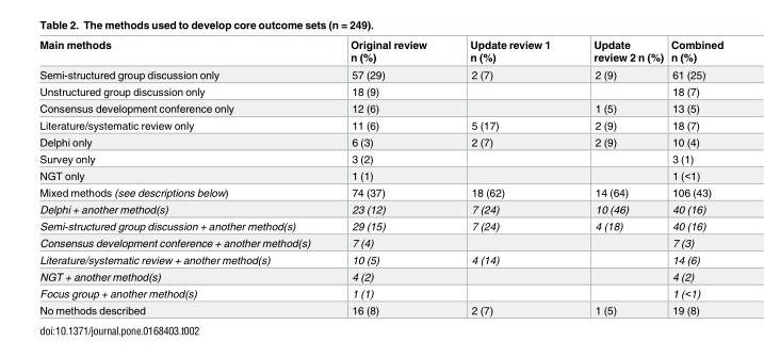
<table><thead><tr><td>Main methods</td><td>Original review n (%)</td><td>Update review 1 n (%)</td><td>Update review 2 n (%)</td><td>Combined n (%)</td></tr></thead><tbody><tr><td>Semi-structured group discussion only</td><td>57 (29)</td><td>2 (7)</td><td>2 (9)</td><td>61 (25)</td></tr><tr><td>Unstructured group discussion only</td><td>18 (9)</td><td></td><td></td><td>18 (7)</td></tr><tr><td>Consensus development conference only</td><td>12 (6)</td><td></td><td>1 (5)</td><td>13 (5)</td></tr><tr><td>Literature/systematic review only</td><td>11 (6)</td><td>5 (17)</td><td>2 (9)</td><td>18 (7)</td></tr><tr><td>Delphi only</td><td>6 (3)</td><td>2 (7)</td><td>2 (9)</td><td>10 (4)</td></tr><tr><td>Survey only</td><td>3 (2)</td><td></td><td></td><td>3 (1)</td></tr><tr><td>NGT only</td><td>1 (1)</td><td></td><td></td><td>1 (&lt;1)</td></tr><tr><td>Mixed methods (see descriptions below)</td><td>74 (37)</td><td>18 (62)</td><td>14 (64)</td><td>106 (43)</td></tr><tr><td>Delphi + another method(s)</td><td>23 (12)</td><td>7 (24)</td><td>10 (46)</td><td>40 (16)</td></tr><tr><td>Semi-structured group discussion + another method(s)</td><td>29 (15)</td><td>7 (24)</td><td>4 (18)</td><td>40 (16)</td></tr><tr><td>Consensus development conference + another method(s)</td><td>7 (4)</td><td></td><td></td><td>7 (3)</td></tr><tr><td>Literature/systematic review + another method(s)</td><td>10 (5)</td><td>4 (14)</td><td></td><td>14 (6)</td></tr><tr><td>NGT + another method(s)</td><td>4 (2)</td><td></td><td></td><td>4 (2)</td></tr><tr><td>Focus group + another method(s)</td><td>1 (1)</td><td></td><td></td><td>1 (&lt;1)</td></tr><tr><td>No methods described</td><td>16 (8)</td><td>2 (7)</td><td>1 (5)</td><td>19 (8)</td></tr></tbody></table>